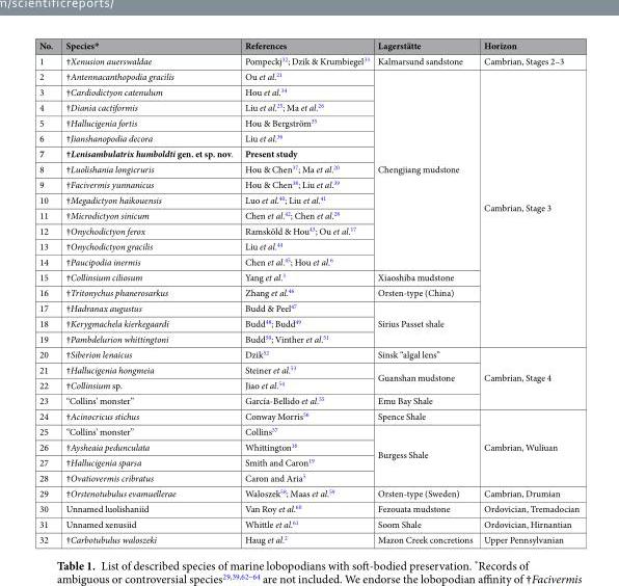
<table><thead><tr><td>No.</td><td>Species*</td><td>References</td><td>Lagerstätte</td><td>Horizon</td></tr></thead><tbody><tr><td>1</td><td>†Xenusion auerswaldae</td><td>Pompeckj<sup>32</sup>; Dzik &amp; Krumbiegel<sup>33</sup></td><td>Kalmarsund sandstone</td><td>Cambrian, Stages 2–3</td></tr><tr><td>2</td><td>†Antennacanthopodia gracilis</td><td>Ou et al.<sup>21</sup></td><td rowspan="13">Chengjiang mudstone</td><td rowspan="18">Cambrian, Stage 3</td></tr><tr><td>3</td><td>†Cardiodictyon catenulum</td><td>Hou et al.<sup>34</sup></td></tr><tr><td>4</td><td>†Diania cactiformis</td><td>Liu et al.<sup>25</sup>; Ma et al.<sup>26</sup></td></tr><tr><td>5</td><td>†Hallucigenia fortis</td><td>Hou &amp; Bergström<sup>35</sup></td></tr><tr><td>6</td><td>†Jianshanopodia decora</td><td>Liu et al.<sup>36</sup></td></tr><tr><td>7</td><td>†Lenisambulatrix humboldti gen. et sp. nov.</td><td>Present study</td></tr><tr><td>8</td><td>†Luolishania longicruris</td><td>Hou &amp; Chen<sup>37</sup>; Ma et al.<sup>20</sup></td></tr><tr><td>9</td><td>†Facivermis yunnanicus</td><td>Hou &amp; Chen<sup>38</sup>; Liu et al.<sup>39</sup></td></tr><tr><td>10</td><td>†Megadictyon haikouensis</td><td>Luo et al.<sup>40</sup>; Liu et al.<sup>41</sup></td></tr><tr><td>11</td><td>†Microdictyon sinicum</td><td>Chen et al.<sup>42</sup>; Chen et al.<sup>28</sup></td></tr><tr><td>12</td><td>†Onychodictyon ferox</td><td>Ramsköld &amp; Hou<sup>43</sup>; Ou et al.<sup>17</sup></td></tr><tr><td>13</td><td>†Onychodictyon gracilis</td><td>Liu et al.<sup>44</sup></td></tr><tr><td>14</td><td>†Paucipodia inermis</td><td>Chen et al.<sup>45</sup>; Hou et al.<sup>6</sup></td></tr><tr><td>15</td><td>†Collinsium ciliosum</td><td>Yang et al.<sup>3</sup></td><td>Xiaoshiba mudstone</td></tr><tr><td>16</td><td>†Tritonychus phanerosarkus</td><td>Zhang et al.<sup>46</sup></td><td>Orsten-type (China)</td></tr><tr><td>17</td><td>†Hadranax augustus</td><td>Budd &amp; Peel<sup>47</sup></td><td rowspan="3">Sirius Passet shale</td></tr><tr><td>18</td><td>†Kerygmachela kierkegaardi</td><td>Budd<sup>48</sup>; Budd<sup>49</sup></td></tr><tr><td>19</td><td>†Pambdelurion whittingtoni</td><td>Budd<sup>50</sup>; Vinther et al.<sup>51</sup></td></tr><tr><td>20</td><td>†Siberion lenaicus</td><td>Dzik<sup>52</sup></td><td>Sinsk “algal lens”</td><td rowspan="4">Cambrian, Stage 4</td></tr><tr><td>21</td><td>†Hallucigenia hongmeia</td><td>Steiner et al.<sup>53</sup></td><td rowspan="2">Guanshan mudstone</td></tr><tr><td>22</td><td>†Collinsium sp.</td><td>Jiao et al.<sup>54</sup></td></tr><tr><td>23</td><td>“Collins’ monster”</td><td>García-Bellido et al.<sup>55</sup></td><td>Emu Bay Shale</td></tr><tr><td>24</td><td>†Acinocricus stichus</td><td>Conway Morris<sup>56</sup></td><td>Spence Shale</td><td rowspan="5">Cambrian, Wuliuan</td></tr><tr><td>25</td><td>“Collins’ monster”</td><td>Collins<sup>57</sup></td><td rowspan="4">Burgess Shale</td></tr><tr><td>26</td><td>†Aysheaia pedunculata</td><td>Whittington<sup>16</sup></td></tr><tr><td>27</td><td>†Hallucigenia sparsa</td><td>Smith and Caron<sup>19</sup></td></tr><tr><td>28</td><td>†Ovatiovermis cribratus</td><td>Caron and Aria<sup>5</sup></td></tr><tr><td>29</td><td>†Orstenotubulus evamuellerae</td><td>Waloszek<sup>58</sup>; Maas et al.<sup>59</sup></td><td>Orsten-type (Sweden)</td><td>Cambrian, Drumian</td></tr><tr><td>30</td><td>Unnamed luolishaniid</td><td>Van Roy et al.<sup>60</sup></td><td>Fezouata mudstone</td><td>Ordovician, Tremadocian</td></tr><tr><td>31</td><td>Unnamed xenusiid</td><td>Whittle et al.<sup>61</sup></td><td>Soom Shale</td><td>Ordovician, Hirnantian</td></tr><tr><td>32</td><td>†Carbotubulus waloszeki</td><td>Haug et al.<sup>2</sup></td><td>Mazon Creek concretions</td><td>Upper Pennsylvanian</td></tr></tbody></table>